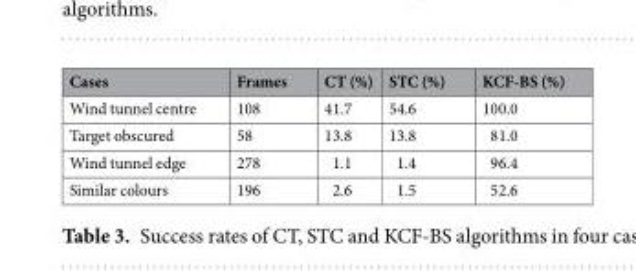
<table><thead><tr><td>Cases</td><td>Frames</td><td>CT (%)</td><td>STC (%)</td><td>KCF-BS (%)</td></tr></thead><tbody><tr><td>Wind tunnel centre</td><td>108</td><td>41.7</td><td>54.6</td><td>100.0</td></tr><tr><td>Target obscured</td><td>58</td><td>13.8</td><td>13.8</td><td>81.0</td></tr><tr><td>Wind tunnel edge</td><td>278</td><td>1.1</td><td>1.4</td><td>96.4</td></tr><tr><td>Similar colours</td><td>196</td><td>2.6</td><td>1.5</td><td>52.6</td></tr></tbody></table>